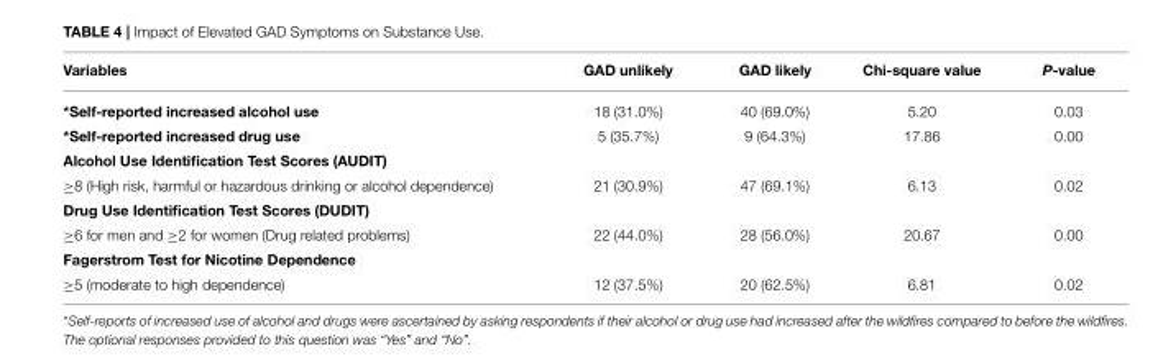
<table><thead><tr><td>Variables</td><td>GAD unlikely</td><td>GAD likely</td><td>Chi-square value</td><td>P-value</td></tr></thead><tbody><tr><td>*Self-reported increased alcohol use</td><td>18 (31.0%)</td><td>40 (69.0%)</td><td>5.20</td><td>0.03</td></tr><tr><td>*Self-reported increased drug use</td><td>5 (35.7%)</td><td>9 (64.3%)</td><td>17.86</td><td>0.00</td></tr><tr><td colspan="5">Alcohol Use Identification Test Scores (AUDIT)</td></tr><tr><td>≥8 (High risk, harmful or hazardous drinking or alcohol dependence)</td><td>21 (30.9%)</td><td>47 (69.1%)</td><td>6.13</td><td>0.02</td></tr><tr><td colspan="5">Drug Use Identification Test Scores (DUDIT)</td></tr><tr><td>≥6 for men and ≥2 for women (Drug related problems)</td><td>22 (44.0%)</td><td>28 (56.0%)</td><td>20.67</td><td>0.00</td></tr><tr><td colspan="5">Fagerstrom Test for Nicotine Dependence</td></tr><tr><td>≥5 (moderate to high dependence)</td><td>12 (37.5%)</td><td>20 (62.5%)</td><td>6.81</td><td>0.02</td></tr></tbody></table>